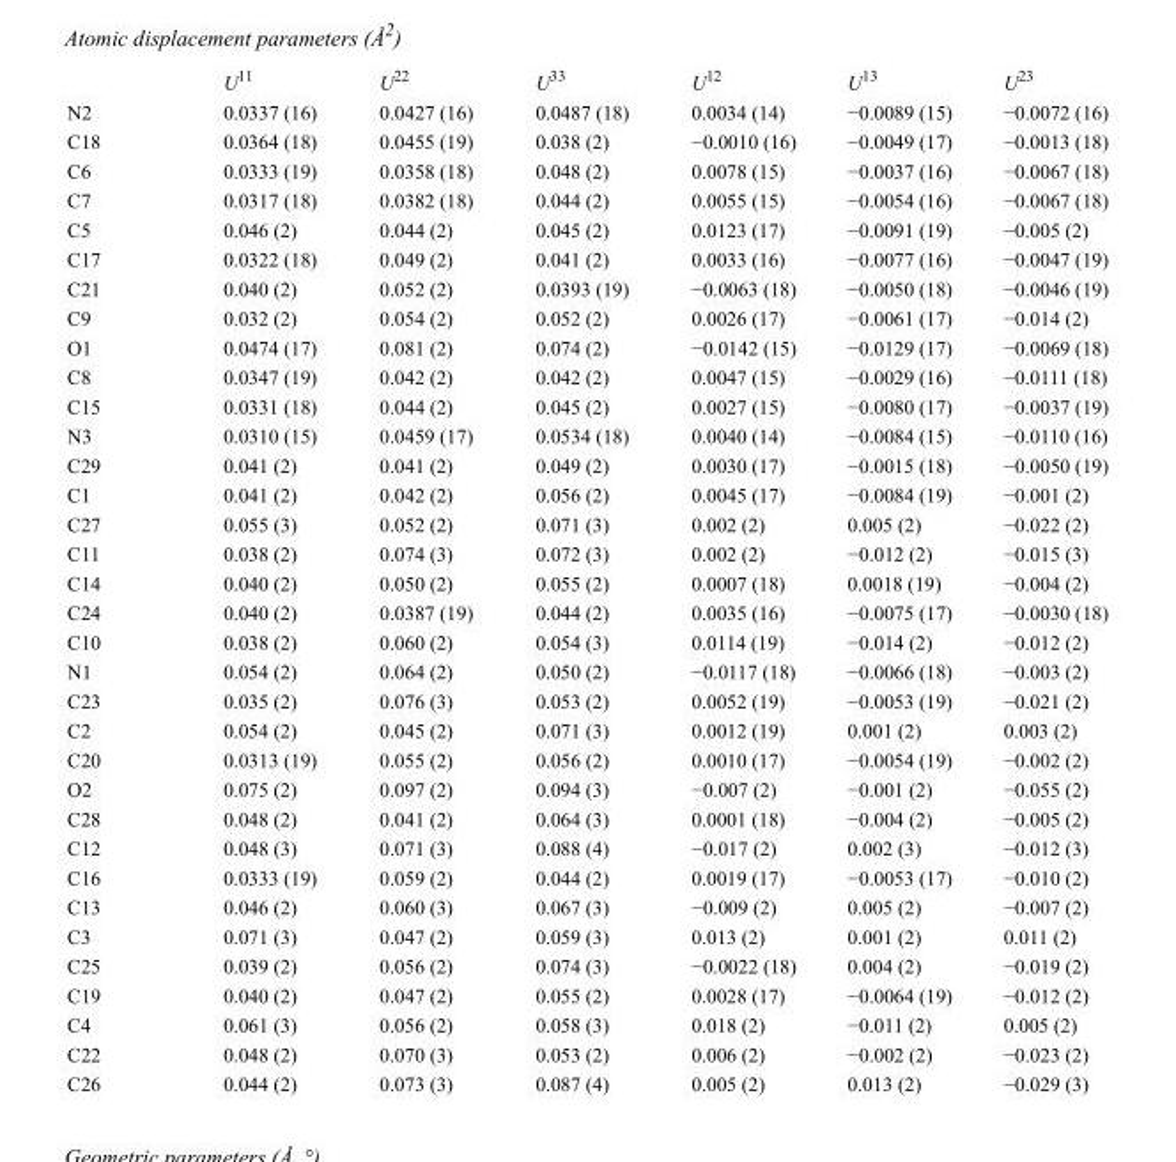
<table><thead><tr><td></td><td>U<sup>11</sup></td><td>U<sup>22</sup></td><td>U<sup>33</sup></td><td>U<sup>12</sup></td><td>U<sup>13</sup></td><td>U<sup>23</sup></td></tr></thead><tbody><tr><td>N2</td><td>0.0337 (16)</td><td>0.0427 (16)</td><td>0.0487 (18)</td><td>0.0034 (14)</td><td>−0.0089 (15)</td><td>−0.0072 (16)</td></tr><tr><td>C18</td><td>0.0364 (18)</td><td>0.0455 (19)</td><td>0.038 (2)</td><td>−0.0010 (16)</td><td>−0.0049 (17)</td><td>−0.0013 (18)</td></tr><tr><td>C6</td><td>0.0333 (19)</td><td>0.0358 (18)</td><td>0.048 (2)</td><td>0.0078 (15)</td><td>−0.0037 (16)</td><td>−0.0067 (18)</td></tr><tr><td>C7</td><td>0.0317 (18)</td><td>0.0382 (18)</td><td>0.044 (2)</td><td>0.0055 (15)</td><td>−0.0054 (16)</td><td>−0.0067 (18)</td></tr><tr><td>C5</td><td>0.046 (2)</td><td>0.044 (2)</td><td>0.045 (2)</td><td>0.0123 (17)</td><td>−0.0091 (19)</td><td>−0.005 (2)</td></tr><tr><td>C17</td><td>0.0322 (18)</td><td>0.049 (2)</td><td>0.041 (2)</td><td>0.0033 (16)</td><td>−0.0077 (16)</td><td>−0.0047 (19)</td></tr><tr><td>C21</td><td>0.040 (2)</td><td>0.052 (2)</td><td>0.0393 (19)</td><td>−0.0063 (18)</td><td>−0.0050 (18)</td><td>−0.0046 (19)</td></tr><tr><td>C9</td><td>0.032 (2)</td><td>0.054 (2)</td><td>0.052 (2)</td><td>0.0026 (17)</td><td>−0.0061 (17)</td><td>−0.014 (2)</td></tr><tr><td>O1</td><td>0.0474 (17)</td><td>0.081 (2)</td><td>0.074 (2)</td><td>−0.0142 (15)</td><td>−0.0129 (17)</td><td>−0.0069 (18)</td></tr><tr><td>C8</td><td>0.0347 (19)</td><td>0.042 (2)</td><td>0.042 (2)</td><td>0.0047 (15)</td><td>−0.0029 (16)</td><td>−0.0111 (18)</td></tr><tr><td>C15</td><td>0.0331 (18)</td><td>0.044 (2)</td><td>0.045 (2)</td><td>0.0027 (15)</td><td>−0.0080 (17)</td><td>−0.0037 (19)</td></tr><tr><td>N3</td><td>0.0310 (15)</td><td>0.0459 (17)</td><td>0.0534 (18)</td><td>0.0040 (14)</td><td>−0.0084 (15)</td><td>−0.0110 (16)</td></tr><tr><td>C29</td><td>0.041 (2)</td><td>0.041 (2)</td><td>0.049 (2)</td><td>0.0030 (17)</td><td>−0.0015 (18)</td><td>−0.0050 (19)</td></tr><tr><td>C1</td><td>0.041 (2)</td><td>0.042 (2)</td><td>0.056 (2)</td><td>0.0045 (17)</td><td>−0.0084 (19)</td><td>−0.001 (2)</td></tr><tr><td>C27</td><td>0.055 (3)</td><td>0.052 (2)</td><td>0.071 (3)</td><td>0.002 (2)</td><td>0.005 (2)</td><td>−0.022 (2)</td></tr><tr><td>C11</td><td>0.038 (2)</td><td>0.074 (3)</td><td>0.072 (3)</td><td>0.002 (2)</td><td>−0.012 (2)</td><td>−0.015 (3)</td></tr><tr><td>C14</td><td>0.040 (2)</td><td>0.050 (2)</td><td>0.055 (2)</td><td>0.0007 (18)</td><td>0.0018 (19)</td><td>−0.004 (2)</td></tr><tr><td>C24</td><td>0.040 (2)</td><td>0.0387 (19)</td><td>0.044 (2)</td><td>0.0035 (16)</td><td>−0.0075 (17)</td><td>−0.0030 (18)</td></tr><tr><td>C10</td><td>0.038 (2)</td><td>0.060 (2)</td><td>0.054 (3)</td><td>0.0114 (19)</td><td>−0.014 (2)</td><td>−0.012 (2)</td></tr><tr><td>N1</td><td>0.054 (2)</td><td>0.064 (2)</td><td>0.050 (2)</td><td>−0.0117 (18)</td><td>−0.0066 (18)</td><td>−0.003 (2)</td></tr><tr><td>C23</td><td>0.035 (2)</td><td>0.076 (3)</td><td>0.053 (2)</td><td>0.0052 (19)</td><td>−0.0053 (19)</td><td>−0.021 (2)</td></tr><tr><td>C2</td><td>0.054 (2)</td><td>0.045 (2)</td><td>0.071 (3)</td><td>0.0012 (19)</td><td>0.001 (2)</td><td>0.003 (2)</td></tr><tr><td>C20</td><td>0.0313 (19)</td><td>0.055 (2)</td><td>0.056 (2)</td><td>0.0010 (17)</td><td>−0.0054 (19)</td><td>−0.002 (2)</td></tr><tr><td>O2</td><td>0.075 (2)</td><td>0.097 (2)</td><td>0.094 (3)</td><td>−0.007 (2)</td><td>−0.001 (2)</td><td>−0.055 (2)</td></tr><tr><td>C28</td><td>0.048 (2)</td><td>0.041 (2)</td><td>0.064 (3)</td><td>0.0001 (18)</td><td>−0.004 (2)</td><td>−0.005 (2)</td></tr><tr><td>C12</td><td>0.048 (3)</td><td>0.071 (3)</td><td>0.088 (4)</td><td>−0.017 (2)</td><td>0.002 (3)</td><td>−0.012 (3)</td></tr><tr><td>C16</td><td>0.0333 (19)</td><td>0.059 (2)</td><td>0.044 (2)</td><td>0.0019 (17)</td><td>−0.0053 (17)</td><td>−0.010 (2)</td></tr><tr><td>C13</td><td>0.046 (2)</td><td>0.060 (3)</td><td>0.067 (3)</td><td>−0.009 (2)</td><td>0.005 (2)</td><td>−0.007 (2)</td></tr><tr><td>C3</td><td>0.071 (3)</td><td>0.047 (2)</td><td>0.059 (3)</td><td>0.013 (2)</td><td>0.001 (2)</td><td>0.011 (2)</td></tr><tr><td>C25</td><td>0.039 (2)</td><td>0.056 (2)</td><td>0.074 (3)</td><td>−0.0022 (18)</td><td>0.004 (2)</td><td>−0.019 (2)</td></tr><tr><td>C19</td><td>0.040 (2)</td><td>0.047 (2)</td><td>0.055 (2)</td><td>0.0028 (17)</td><td>−0.0064 (19)</td><td>−0.012 (2)</td></tr><tr><td>C4</td><td>0.061 (3)</td><td>0.056 (2)</td><td>0.058 (3)</td><td>0.018 (2)</td><td>−0.011 (2)</td><td>0.005 (2)</td></tr><tr><td>C22</td><td>0.048 (2)</td><td>0.070 (3)</td><td>0.053 (2)</td><td>0.006 (2)</td><td>−0.002 (2)</td><td>−0.023 (2)</td></tr><tr><td>C26</td><td>0.044 (2)</td><td>0.073 (3)</td><td>0.087 (4)</td><td>0.005 (2)</td><td>0.013 (2)</td><td>−0.029 (3)</td></tr></tbody></table>